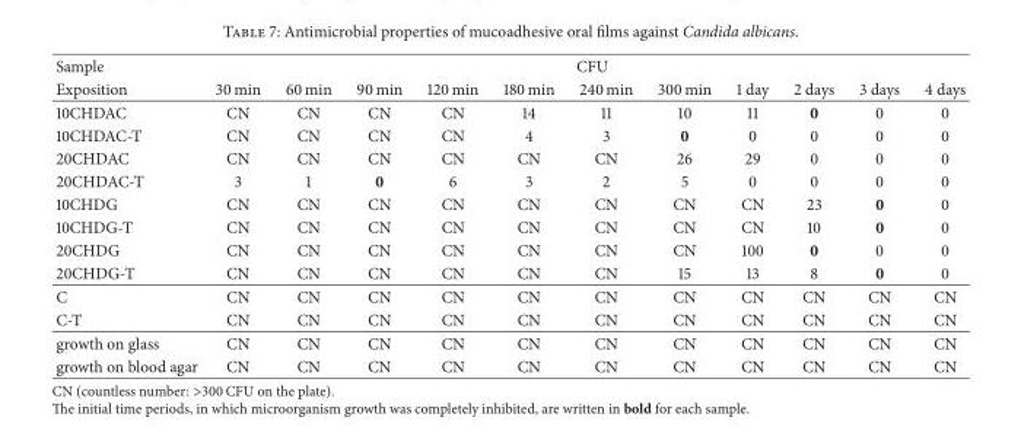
<table><thead><tr><td rowspan="2">Sample Exposition</td><td colspan="11">CFU</td></tr><tr><td>30 min</td><td>60 min</td><td>90 min</td><td>120 min</td><td>180 min</td><td>240 min</td><td>300 min</td><td>1 day</td><td>2 days</td><td>3 days</td><td>4 days</td></tr></thead><tbody><tr><td>10CHDAC</td><td>CN</td><td>CN</td><td>CN</td><td>CN</td><td>14</td><td>11</td><td>10</td><td>11</td><td>0</td><td>0</td><td>0</td></tr><tr><td>10CHDAC-T</td><td>CN</td><td>CN</td><td>CN</td><td>CN</td><td>4</td><td>3</td><td>0</td><td>0</td><td>0</td><td>0</td><td>0</td></tr><tr><td>20CHDAC</td><td>CN</td><td>CN</td><td>CN</td><td>CN</td><td>CN</td><td>CN</td><td>26</td><td>29</td><td>0</td><td>0</td><td>0</td></tr><tr><td>20CHDAC-T</td><td>3</td><td>1</td><td>0</td><td>6</td><td>3</td><td>2</td><td>5</td><td>0</td><td>0</td><td>0</td><td>0</td></tr><tr><td>10CHDG</td><td>CN</td><td>CN</td><td>CN</td><td>CN</td><td>CN</td><td>CN</td><td>CN</td><td>CN</td><td>23</td><td>0</td><td>0</td></tr><tr><td>10CHDG-T</td><td>CN</td><td>CN</td><td>CN</td><td>CN</td><td>CN</td><td>CN</td><td>CN</td><td>CN</td><td>10</td><td>0</td><td>0</td></tr><tr><td>20CHDG</td><td>CN</td><td>CN</td><td>CN</td><td>CN</td><td>CN</td><td>CN</td><td>CN</td><td>100</td><td>0</td><td>0</td><td>0</td></tr><tr><td>20CHDG-T</td><td>CN</td><td>CN</td><td>CN</td><td>CN</td><td>CN</td><td>CN</td><td>15</td><td>13</td><td>8</td><td>0</td><td>0</td></tr><tr><td>C</td><td>CN</td><td>CN</td><td>CN</td><td>CN</td><td>CN</td><td>CN</td><td>CN</td><td>CN</td><td>CN</td><td>CN</td><td>CN</td></tr><tr><td>C-T</td><td>CN</td><td>CN</td><td>CN</td><td>CN</td><td>CN</td><td>CN</td><td>CN</td><td>CN</td><td>CN</td><td>CN</td><td>CN</td></tr><tr><td>growth on glass</td><td>CN</td><td>CN</td><td>CN</td><td>CN</td><td>CN</td><td>CN</td><td>CN</td><td>CN</td><td>CN</td><td>CN</td><td>CN</td></tr><tr><td>growth on blood agar</td><td>CN</td><td>CN</td><td>CN</td><td>CN</td><td>CN</td><td>CN</td><td>CN</td><td>CN</td><td>CN</td><td>CN</td><td>CN</td></tr></tbody></table>